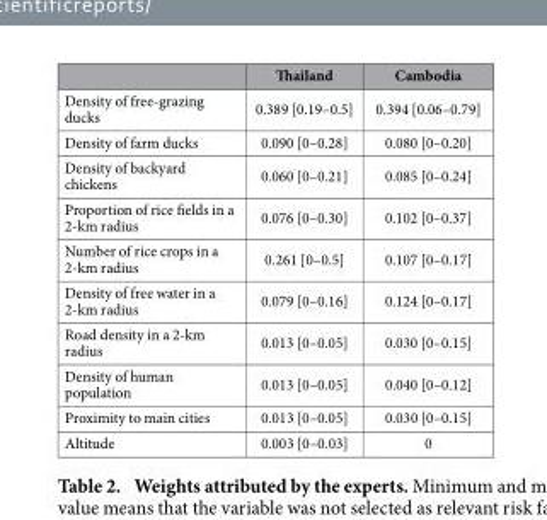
<table><thead><tr><td></td><td>Thailand</td><td>Cambodia</td></tr></thead><tbody><tr><td>Density of free-grazing ducks</td><td>0.389 [0.19–0.5]</td><td>0.394 [0.06–0.79]</td></tr><tr><td>Density of farm ducks</td><td>0.090 [0–0.28]</td><td>0.080 [0–0.20]</td></tr><tr><td>Density of backyard chickens</td><td>0.060 [0–0.21]</td><td>0.085 [0–0.24]</td></tr><tr><td>Proportion of rice fields in a 2-km radius</td><td>0.076 [0–0.30]</td><td>0.102 [0–0.37]</td></tr><tr><td>Number of rice crops in a 2-km radius</td><td>0.261 [0–0.5]</td><td>0.107 [0–0.17]</td></tr><tr><td>Density of free water in a 2-km radius</td><td>0.079 [0–0.16]</td><td>0.124 [0–0.17]</td></tr><tr><td>Road density in a 2-km radius</td><td>0.013 [0–0.05]</td><td>0.030 [0–0.15]</td></tr><tr><td>Density of human population</td><td>0.013 [0–0.05]</td><td>0.040 [0–0.12]</td></tr><tr><td>Proximity to main cities</td><td>0.013 [0–0.05]</td><td>0.030 [0–0.15]</td></tr><tr><td>Altitude</td><td>0.003 [0–0.03]</td><td>0</td></tr></tbody></table>